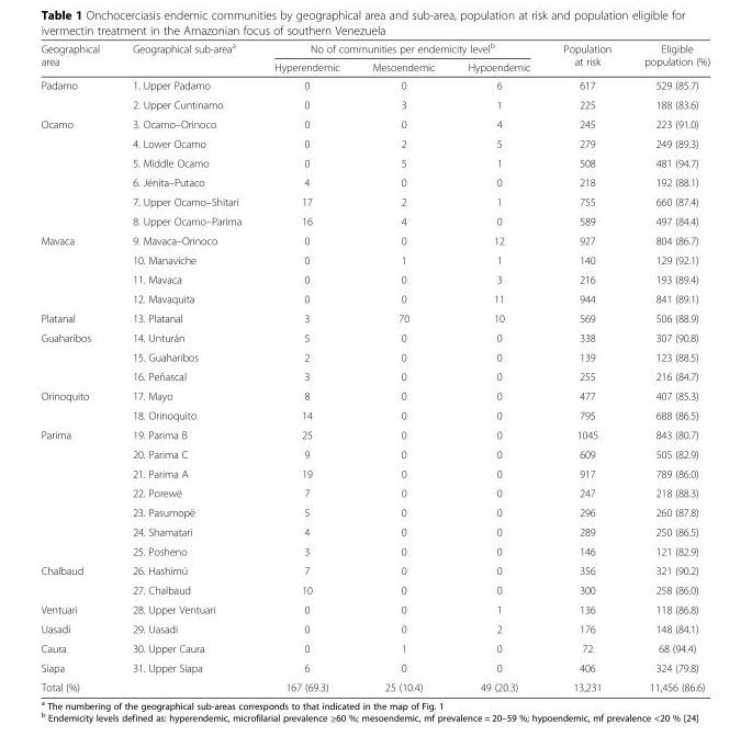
<table><thead><tr><td rowspan="2">Geographical area</td><td rowspan="2">Geographical sub-area<sup>a</sup></td><td colspan="3">No of communities per endemicity level<sup>b</sup></td><td rowspan="2">Population at risk</td><td rowspan="2">Eligible population (%)</td></tr><tr><td>Hyperendemic</td><td>Mesoendemic</td><td>Hypoendemic</td></tr></thead><tbody><tr><td rowspan="2">Padamo</td><td>1. Upper Padamo</td><td>0</td><td>0</td><td>6</td><td>617</td><td>529 (85.7)</td></tr><tr><td>2. Upper Cuntinamo</td><td>0</td><td>3</td><td>1</td><td>225</td><td>188 (83.6)</td></tr><tr><td rowspan="6">Ocamo</td><td>3. Ocamo–Orinoco</td><td>0</td><td>0</td><td>4</td><td>245</td><td>223 (91.0)</td></tr><tr><td>4. Lower Ocamo</td><td>0</td><td>2</td><td>5</td><td>279</td><td>249 (89.3)</td></tr><tr><td>5. Middle Ocamo</td><td>0</td><td>5</td><td>1</td><td>508</td><td>481 (94.7)</td></tr><tr><td>6. Jénita–Putaco</td><td>4</td><td>0</td><td>0</td><td>218</td><td>192 (88.1)</td></tr><tr><td>7. Upper Ocamo–Shitari</td><td>17</td><td>2</td><td>1</td><td>755</td><td>660 (87.4)</td></tr><tr><td>8. Upper Ocamo–Parima</td><td>16</td><td>4</td><td>0</td><td>589</td><td>497 (84.4)</td></tr><tr><td rowspan="4">Mavaca</td><td>9. Mavaca–Orinoco</td><td>0</td><td>0</td><td>12</td><td>927</td><td>804 (86.7)</td></tr><tr><td>10. Manaviche</td><td>0</td><td>1</td><td>1</td><td>140</td><td>129 (92.1)</td></tr><tr><td>11. Mavaca</td><td>0</td><td>0</td><td>3</td><td>216</td><td>193 (89.4)</td></tr><tr><td>12. Mavaquita</td><td>0</td><td>0</td><td>11</td><td>944</td><td>841 (89.1)</td></tr><tr><td>Platanal</td><td>13. Platanal</td><td>3</td><td>70</td><td>10</td><td>569</td><td>506 (88.9)</td></tr><tr><td rowspan="3">Guaharibos</td><td>14. Unturán</td><td>5</td><td>0</td><td>0</td><td>338</td><td>307 (90.8)</td></tr><tr><td>15. Guaharibos</td><td>2</td><td>0</td><td>0</td><td>139</td><td>123 (88.5)</td></tr><tr><td>16. Peñascal</td><td>3</td><td>0</td><td>0</td><td>255</td><td>216 (84.7)</td></tr><tr><td rowspan="2">Orinoquito</td><td>17. Mayo</td><td>8</td><td>0</td><td>0</td><td>477</td><td>407 (85.3)</td></tr><tr><td>18. Orinoquito</td><td>14</td><td>0</td><td>0</td><td>795</td><td>688 (86.5)</td></tr><tr><td rowspan="7">Parima</td><td>19. Parima B</td><td>25</td><td>0</td><td>0</td><td>1045</td><td>843 (80.7)</td></tr><tr><td>20. Parima C</td><td>9</td><td>0</td><td>0</td><td>609</td><td>505 (82.9)</td></tr><tr><td>21. Parima A</td><td>19</td><td>0</td><td>0</td><td>917</td><td>789 (86.0)</td></tr><tr><td>22. Porewë</td><td>7</td><td>0</td><td>0</td><td>247</td><td>218 (88.3)</td></tr><tr><td>23. Pasumopë</td><td>5</td><td>0</td><td>0</td><td>296</td><td>260 (87.8)</td></tr><tr><td>24. Shamatari</td><td>4</td><td>0</td><td>0</td><td>289</td><td>250 (86.5)</td></tr><tr><td>25. Posheno</td><td>3</td><td>0</td><td>0</td><td>146</td><td>121 (82.9)</td></tr><tr><td rowspan="2">Chalbaud</td><td>26. Hashimú</td><td>7</td><td>0</td><td>0</td><td>356</td><td>321 (90.2)</td></tr><tr><td>27. Chalbaud</td><td>10</td><td>0</td><td>0</td><td>300</td><td>258 (86.0)</td></tr><tr><td>Ventuari</td><td>28. Upper Ventuari</td><td>0</td><td>0</td><td>1</td><td>136</td><td>118 (86.8)</td></tr><tr><td>Uasadi</td><td>29. Uasadi</td><td>0</td><td>0</td><td>2</td><td>176</td><td>148 (84.1)</td></tr><tr><td>Caura</td><td>30. Upper Caura</td><td>0</td><td>1</td><td>0</td><td>72</td><td>68 (94.4)</td></tr><tr><td>Siapa</td><td>31. Upper Siapa</td><td>6</td><td>0</td><td>0</td><td>406</td><td>324 (79.8)</td></tr><tr><td>Total (%)</td><td></td><td>167 (69.3)</td><td>25 (10.4)</td><td>49 (20.3)</td><td>13,231</td><td>11,456 (86.6)</td></tr></tbody></table>